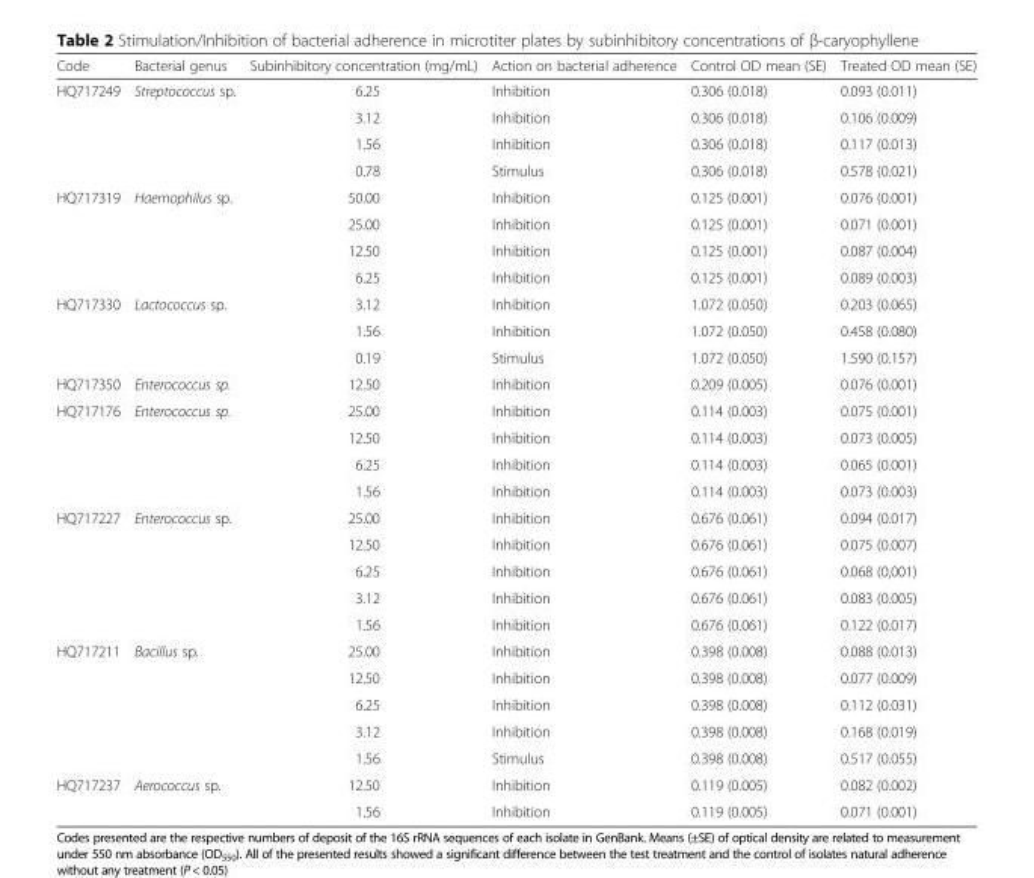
<table><thead><tr><td>Code</td><td>Bacterial genus</td><td>Subinhibitory concentration (mg/mL)</td><td>Action on bacterial adherence</td><td>Control OD mean (SE)</td><td>Treated OD mean (SE)</td></tr></thead><tbody><tr><td rowspan="4">HQ717249</td><td rowspan="4">Streptococcus sp.</td><td>6.25</td><td>Inhibition</td><td>0.306 (0.018)</td><td>0.093 (0.011)</td></tr><tr><td>3.12</td><td>Inhibition</td><td>0.306 (0.018)</td><td>0.106 (0.009)</td></tr><tr><td>1.56</td><td>Inhibition</td><td>0.306 (0.018)</td><td>0.117 (0.013)</td></tr><tr><td>0.78</td><td>Stimulus</td><td>0.306 (0.018)</td><td>0.578 (0.021)</td></tr><tr><td rowspan="4">HQ717319</td><td rowspan="4">Haemophilus sp.</td><td>50.00</td><td>Inhibition</td><td>0.125 (0.001)</td><td>0.076 (0.001)</td></tr><tr><td>25.00</td><td>Inhibition</td><td>0.125 (0.001)</td><td>0.071 (0.001)</td></tr><tr><td>12.50</td><td>Inhibition</td><td>0.125 (0.001)</td><td>0.087 (0.004)</td></tr><tr><td>6.25</td><td>Inhibition</td><td>0.125 (0.001)</td><td>0.089 (0.003)</td></tr><tr><td rowspan="3">HQ717330</td><td rowspan="3">Lactococcus sp.</td><td>3.12</td><td>Inhibition</td><td>1.072 (0.050)</td><td>0.203 (0.065)</td></tr><tr><td>1.56</td><td>Inhibition</td><td>1.072 (0.050)</td><td>0.458 (0.080)</td></tr><tr><td>0.19</td><td>Stimulus</td><td>1.072 (0.050)</td><td>1.590 (0.157)</td></tr><tr><td>HQ717350</td><td>Enterococcus sp.</td><td>12.50</td><td>Inhibition</td><td>0.209 (0.005)</td><td>0.076 (0.001)</td></tr><tr><td rowspan="4">HQ717176</td><td rowspan="4">Enterococcus sp.</td><td>25.00</td><td>Inhibition</td><td>0.114 (0.003)</td><td>0.075 (0.001)</td></tr><tr><td>12.50</td><td>Inhibition</td><td>0.114 (0.003)</td><td>0.073 (0.005)</td></tr><tr><td>6.25</td><td>Inhibition</td><td>0.114 (0.003)</td><td>0.065 (0.001)</td></tr><tr><td>1.56</td><td>Inhibition</td><td>0.114 (0.003)</td><td>0.073 (0.003)</td></tr><tr><td rowspan="5">HQ717227</td><td rowspan="5">Enterococcus sp.</td><td>25.00</td><td>Inhibition</td><td>0.676 (0.061)</td><td>0.094 (0.017)</td></tr><tr><td>12.50</td><td>Inhibition</td><td>0.676 (0.061)</td><td>0.075 (0.007)</td></tr><tr><td>6.25</td><td>Inhibition</td><td>0.676 (0.061)</td><td>0.068 (0,001)</td></tr><tr><td>3.12</td><td>Inhibition</td><td>0.676 (0.061)</td><td>0.083 (0.005)</td></tr><tr><td>1.56</td><td>Inhibition</td><td>0.676 (0.061)</td><td>0.122 (0.017)</td></tr><tr><td rowspan="5">HQ717211</td><td rowspan="5">Bacillus sp.</td><td>25.00</td><td>Inhibition</td><td>0.398 (0.008)</td><td>0.088 (0.013)</td></tr><tr><td>12.50</td><td>Inhibition</td><td>0.398 (0.008)</td><td>0.077 (0.009)</td></tr><tr><td>6.25</td><td>Inhibition</td><td>0.398 (0.008)</td><td>0.112 (0.031)</td></tr><tr><td>3.12</td><td>Inhibition</td><td>0.398 (0.008)</td><td>0.168 (0.019)</td></tr><tr><td>1.56</td><td>Stimulus</td><td>0.398 (0.008)</td><td>0.517 (0.055)</td></tr><tr><td rowspan="2">HQ717237</td><td rowspan="2">Aerococcus sp.</td><td>12.50</td><td>Inhibition</td><td>0.119 (0.005)</td><td>0.082 (0.002)</td></tr><tr><td>1.56</td><td>Inhibition</td><td>0.119 (0.005)</td><td>0.071 (0.001)</td></tr></tbody></table>